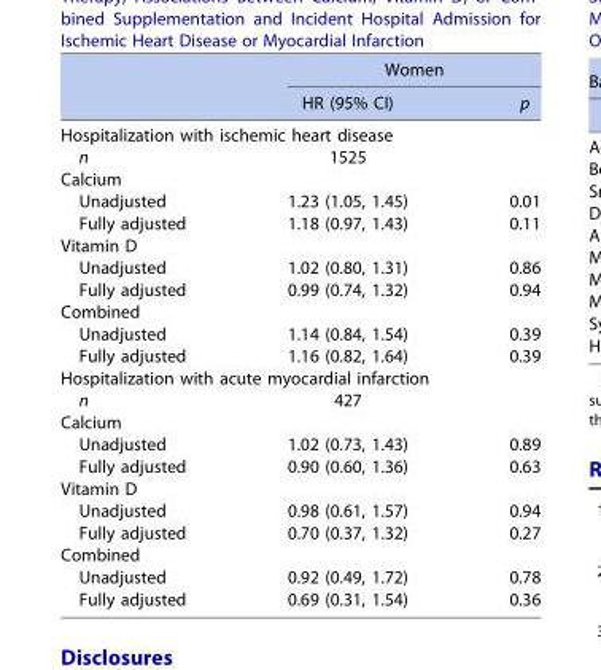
<table><thead><tr><td rowspan="2"></td><td colspan="2">Women</td></tr><tr><td>HR (95% CI)</td><td>p</td></tr></thead><tbody><tr><td colspan="3">Hospitalization with ischemic heart disease</td></tr><tr><td>n</td><td>1525</td><td></td></tr><tr><td colspan="3">Calcium</td></tr><tr><td>Unadjusted</td><td>1.23 (1.05, 1.45)</td><td>0.01</td></tr><tr><td>Fully adjusted</td><td>1.18 (0.97, 1.43)</td><td>0.11</td></tr><tr><td colspan="3">Vitamin D</td></tr><tr><td>Unadjusted</td><td>1.02 (0.80, 1.31)</td><td>0.86</td></tr><tr><td>Fully adjusted</td><td>0.99 (0.74, 1.32)</td><td>0.94</td></tr><tr><td colspan="3">Combined</td></tr><tr><td>Unadjusted</td><td>1.14 (0.84, 1.54)</td><td>0.39</td></tr><tr><td>Fully adjusted</td><td>1.16 (0.82, 1.64)</td><td>0.39</td></tr><tr><td colspan="3">Hospitalization with acute myocardial infarction</td></tr><tr><td>n</td><td>427</td><td></td></tr><tr><td colspan="3">Calcium</td></tr><tr><td>Unadjusted</td><td>1.02 (0.73, 1.43)</td><td>0.89</td></tr><tr><td>Fully adjusted</td><td>0.90 (0.60, 1.36)</td><td>0.63</td></tr><tr><td colspan="3">Vitamin D</td></tr><tr><td>Unadjusted</td><td>0.98 (0.61, 1.57)</td><td>0.94</td></tr><tr><td>Fully adjusted</td><td>0.70 (0.37, 1.32)</td><td>0.27</td></tr><tr><td colspan="3">Combined</td></tr><tr><td>Unadjusted</td><td>0.92 (0.49, 1.72)</td><td>0.78</td></tr><tr><td>Fully adjusted</td><td>0.69 (0.31, 1.54)</td><td>0.36</td></tr></tbody></table>